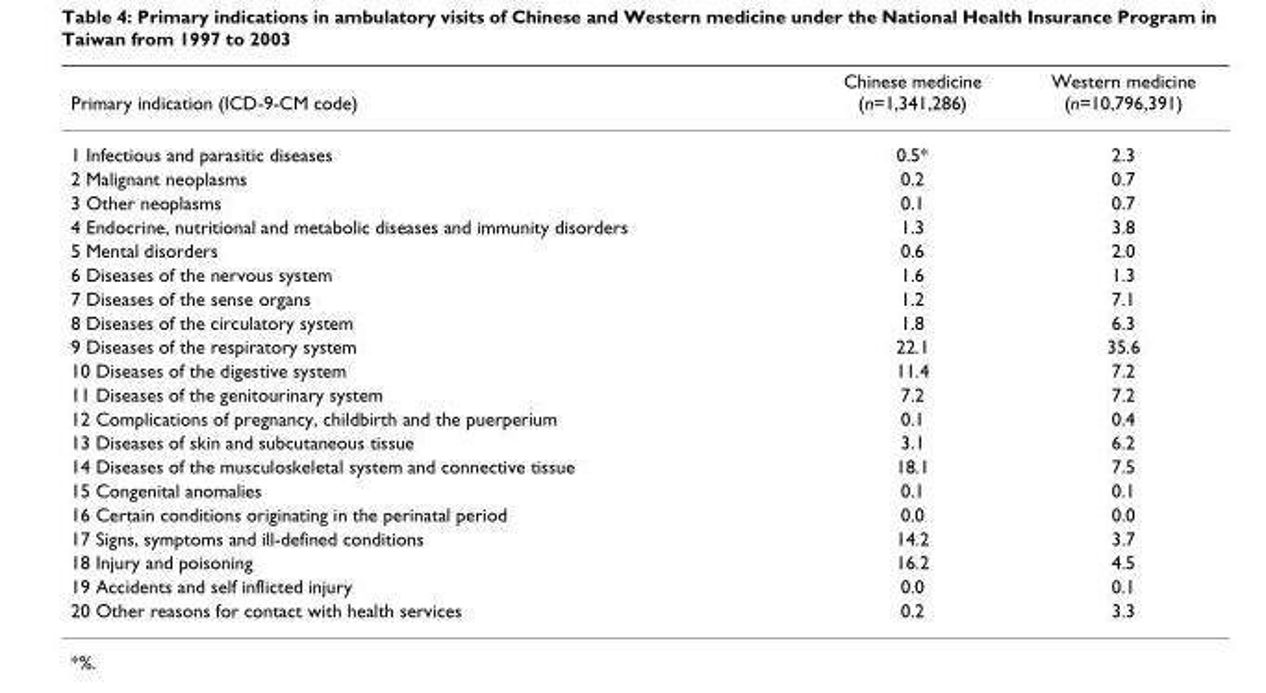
<table><thead><tr><td>Primary indication (ICD-9-CM code)</td><td>Chinese medicine (n=1,341,286)</td><td>Western medicine (n=10,796,391)</td></tr></thead><tbody><tr><td>1 Infectious and parasitic diseases</td><td>0.5*</td><td>2.3</td></tr><tr><td>2 Malignant neoplasms</td><td>0.2</td><td>0.7</td></tr><tr><td>3 Other neoplasms</td><td>0.1</td><td>0.7</td></tr><tr><td>4 Endocrine, nutritional and metabolic diseases and immunity disorders</td><td>1.3</td><td>3.8</td></tr><tr><td>5 Mental disorders</td><td>0.6</td><td>2.0</td></tr><tr><td>6 Diseases of the nervous system</td><td>1.6</td><td>1.3</td></tr><tr><td>7 Diseases of the sense organs</td><td>1.2</td><td>7.1</td></tr><tr><td>8 Diseases of the circulatory system</td><td>1.8</td><td>6.3</td></tr><tr><td>9 Diseases of the respiratory system</td><td>22.1</td><td>35.6</td></tr><tr><td>10 Diseases of the digestive system</td><td>11.4</td><td>7.2</td></tr><tr><td>11 Diseases of the genitourinary system</td><td>7.2</td><td>7.2</td></tr><tr><td>12 Complications of pregnancy, childbirth and the puerperium</td><td>0.1</td><td>0.4</td></tr><tr><td>13 Diseases of skin and subcutaneous tissue</td><td>3.1</td><td>6.2</td></tr><tr><td>14 Diseases of the musculoskeletal system and connective tissue</td><td>18.1</td><td>7.5</td></tr><tr><td>15 Congenital anomalies</td><td>0.1</td><td>0.1</td></tr><tr><td>16 Certain conditions originating in the perinatal period</td><td>0.0</td><td>0.0</td></tr><tr><td>17 Signs, symptoms and ill-defined conditions</td><td>14.2</td><td>3.7</td></tr><tr><td>18 Injury and poisoning</td><td>16.2</td><td>4.5</td></tr><tr><td>19 Accidents and self inflicted injury</td><td>0.0</td><td>0.1</td></tr><tr><td>20 Other reasons for contact with health services</td><td>0.2</td><td>3.3</td></tr></tbody></table>